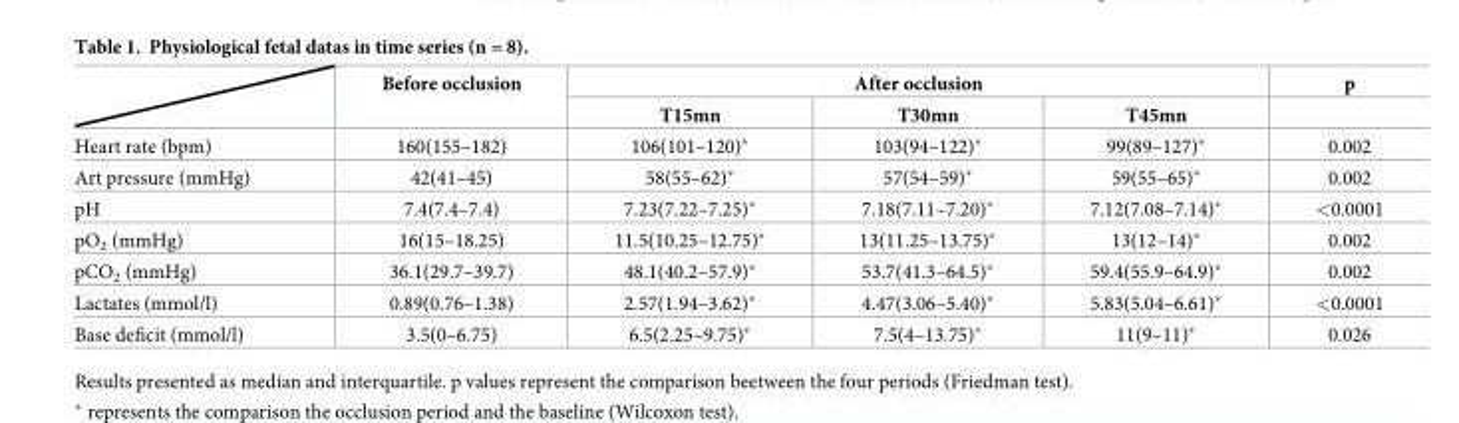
<table><thead><tr><td rowspan="2"></td><td rowspan="2">Before occlusion</td><td colspan="3">After occlusion</td><td rowspan="2">p</td></tr><tr><td>T15mn</td><td>T30mn</td><td>T45mn</td></tr></thead><tbody><tr><td>Heart rate (bpm)</td><td>160(155–182)</td><td>106(101–120)*</td><td>103(94–122)*</td><td>99(89–127)*</td><td>0.002</td></tr><tr><td>Art pressure (mmHg)</td><td>42(41–45)</td><td>58(55–62)*</td><td>57(54–59)*</td><td>59(55–65)*</td><td>0.002</td></tr><tr><td>pH</td><td>7.4(7.4–7.4)</td><td>7.23(7.22–7.25)*</td><td>7.18(7.11–7.20)*</td><td>7.12(7.08–7.14)*</td><td>&lt;0.0001</td></tr><tr><td>pO<sub>2</sub> (mmHg)</td><td>16(15–18.25)</td><td>11.5(10.25–12.75)*</td><td>13(11.25–13.75)*</td><td>13(12–14)*</td><td>0.002</td></tr><tr><td>pCO<sub>2</sub> (mmHg)</td><td>36.1(29.7–39.7)</td><td>48.1(40.2–57.9)*</td><td>53.7(41.3–64.5)*</td><td>59.4(55.9–64.9)*</td><td>0.002</td></tr><tr><td>Lactates (mmol/l)</td><td>0.89(0.76–1.38)</td><td>2.57(1.94–3.62)*</td><td>4.47(3.06–5.40)*</td><td>5.83(5.04–6.61)*</td><td>&lt;0.0001</td></tr><tr><td>Base deficit (mmol/l)</td><td>3.5(0–6.75)</td><td>6.5(2.25–9.75)*</td><td>7.5(4–13.75)*</td><td>11(9–11)*</td><td>0.026</td></tr></tbody></table>